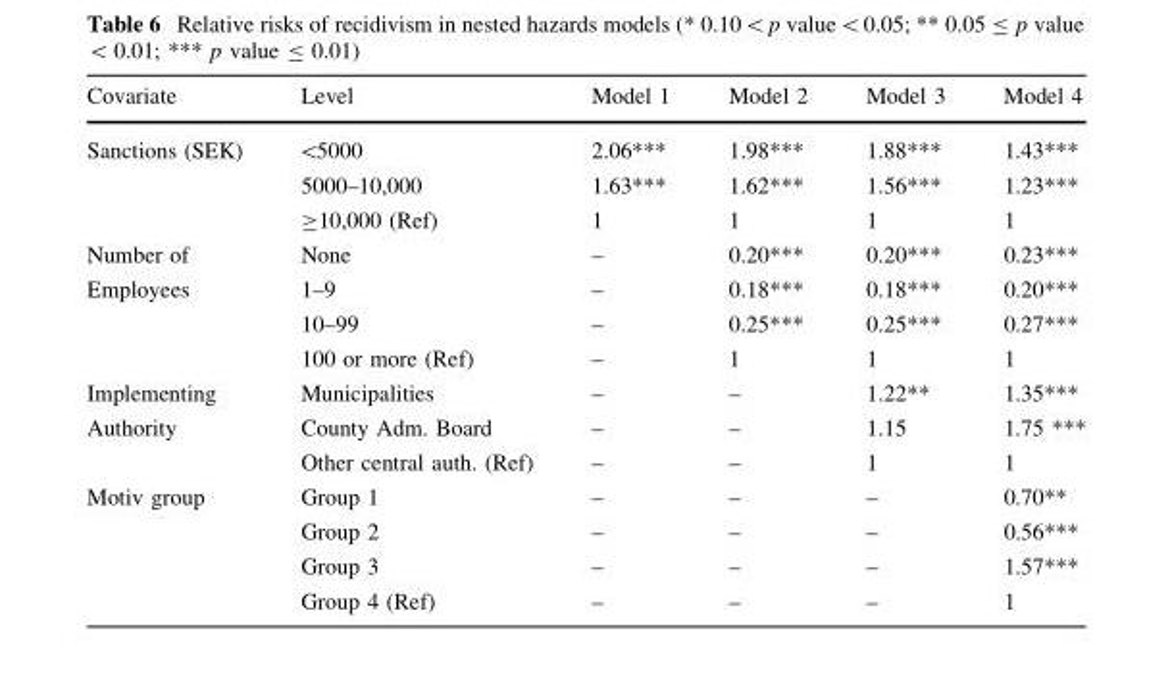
<table><thead><tr><td>Covariate</td><td>Level</td><td>Model 1</td><td>Model 2</td><td>Model 3</td><td>Model 4</td></tr></thead><tbody><tr><td rowspan="3">Sanctions (SEK)</td><td>&lt;5000</td><td>2.06***</td><td>1.98***</td><td>1.88***</td><td>1.43***</td></tr><tr><td>5000–10,000</td><td>1.63***</td><td>1.62***</td><td>1.56***</td><td>1.23***</td></tr><tr><td>≥10,000 (Ref)</td><td>1</td><td>1</td><td>1</td><td>1</td></tr><tr><td>Number of</td><td>None</td><td>–</td><td>0.20***</td><td>0.20***</td><td>0.23***</td></tr><tr><td rowspan="3">Employees</td><td>1–9</td><td>–</td><td>0.18***</td><td>0.18***</td><td>0.20***</td></tr><tr><td>10–99</td><td>–</td><td>0.25***</td><td>0.25***</td><td>0.27***</td></tr><tr><td>100 or more (Ref)</td><td>–</td><td>1</td><td>1</td><td>1</td></tr><tr><td>Implementing</td><td>Municipalities</td><td>–</td><td>–</td><td>1.22**</td><td>1.35***</td></tr><tr><td rowspan="2">Authority</td><td>County Adm. Board</td><td>–</td><td>–</td><td>1.15</td><td>1.75 ***</td></tr><tr><td>Other central auth. (Ref)</td><td>–</td><td>–</td><td>1</td><td>1</td></tr><tr><td rowspan="4">Motiv group</td><td>Group 1</td><td>–</td><td>–</td><td>–</td><td>0.70**</td></tr><tr><td>Group 2</td><td>–</td><td>–</td><td>–</td><td>0.56***</td></tr><tr><td>Group 3</td><td>–</td><td>–</td><td>–</td><td>1.57***</td></tr><tr><td>Group 4 (Ref)</td><td>–</td><td>–</td><td>–</td><td>1</td></tr></tbody></table>